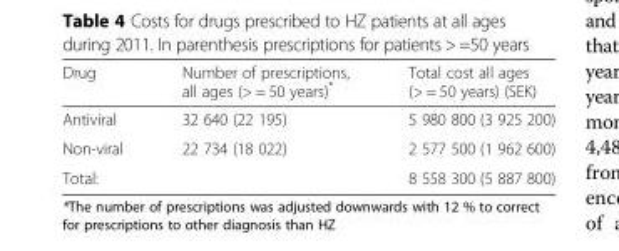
<table><thead><tr><td>Drug</td><td>Number of prescriptions, all ages (&gt; = 50 years)*</td><td>Total cost all ages (&gt; = 50 years) (SEK)</td></tr></thead><tbody><tr><td>Antiviral</td><td>32 640 (22 195)</td><td>5 980 800 (3 925 200)</td></tr><tr><td>Non-viral</td><td>22 734 (18 022)</td><td>2 577 500 (1 962 600)</td></tr><tr><td>Total:</td><td></td><td>8 558 300 (5 887 800)</td></tr></tbody></table>